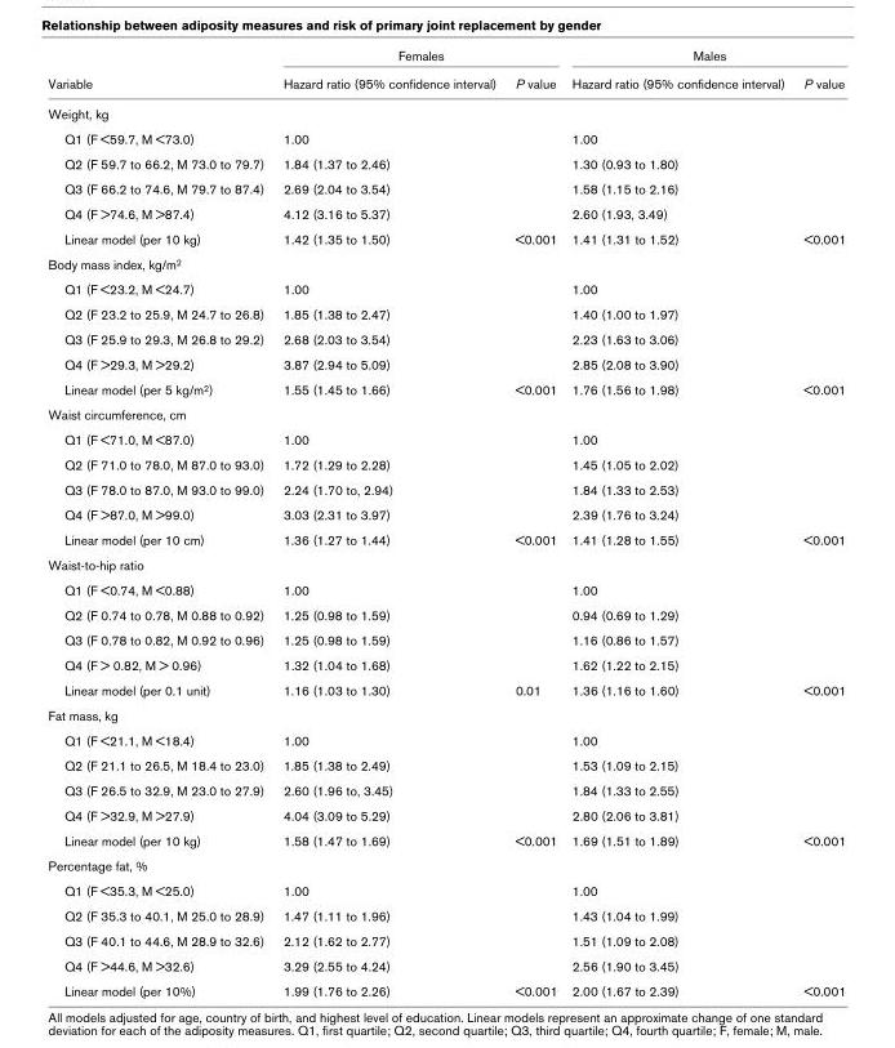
<table><thead><tr><td rowspan="2">Variable</td><td colspan="2">Females</td><td colspan="2">Males</td></tr><tr><td>Hazard ratio (95% confidence interval)</td><td>P value</td><td>Hazard ratio (95% confidence interval)</td><td>P value</td></tr></thead><tbody><tr><td colspan="5">Weight, kg</td></tr><tr><td>Q1 (F &lt;59.7, M &lt;73.0)</td><td>1.00</td><td></td><td>1.00</td><td></td></tr><tr><td>Q2 (F 59.7 to 66.2, M 73.0 to 79.7)</td><td>1.84 (1.37 to 2.46)</td><td></td><td>1.30 (0.93 to 1.80)</td><td></td></tr><tr><td>Q3 (F 66.2 to 74.6, M 79.7 to 87.4)</td><td>2.69 (2.04 to 3.54)</td><td></td><td>1.58 (1.15 to 2.16)</td><td></td></tr><tr><td>Q4 (F &gt;74.6, M &gt;87.4)</td><td>4.12 (3.16 to 5.37)</td><td></td><td>2.60 (1.93, 3.49)</td><td></td></tr><tr><td>Linear model (per 10 kg)</td><td>1.42 (1.35 to 1.50)</td><td>&lt;0.001</td><td>1.41 (1.31 to 1.52)</td><td>&lt;0.001</td></tr><tr><td colspan="5">Body mass index, kg/m<sup>2</sup></td></tr><tr><td>Q1 (F &lt;23.2, M &lt;24.7)</td><td>1.00</td><td></td><td>1.00</td><td></td></tr><tr><td>Q2 (F 23.2 to 25.9, M 24.7 to 26.8)</td><td>1.85 (1.38 to 2.47)</td><td></td><td>1.40 (1.00 to 1.97)</td><td></td></tr><tr><td>Q3 (F 25.9 to 29.3, M 26.8 to 29.2)</td><td>2.68 (2.03 to 3.54)</td><td></td><td>2.23 (1.63 to 3.06)</td><td></td></tr><tr><td>Q4 (F &gt;29.3, M &gt;29.2)</td><td>3.87 (2.94 to 5.09)</td><td></td><td>2.85 (2.08 to 3.90)</td><td></td></tr><tr><td>Linear model (per 5 kg/m<sup>2</sup>)</td><td>1.55 (1.45 to 1.66)</td><td>&lt;0.001</td><td>1.76 (1.56 to 1.98)</td><td>&lt;0.001</td></tr><tr><td colspan="5">Waist circumference, cm</td></tr><tr><td>Q1 (F &lt;71.0, M &lt;87.0)</td><td>1.00</td><td></td><td>1.00</td><td></td></tr><tr><td>Q2 (F 71.0 to 78.0, M 87.0 to 93.0)</td><td>1.72 (1.29 to 2.28)</td><td></td><td>1.45 (1.05 to 2.02)</td><td></td></tr><tr><td>Q3 (F 78.0 to 87.0, M 93.0 to 99.0)</td><td>2.24 (1.70 to, 2.94)</td><td></td><td>1.84 (1.33 to 2.53)</td><td></td></tr><tr><td>Q4 (F &gt;87.0, M &gt;99.0)</td><td>3.03 (2.31 to 3.97)</td><td></td><td>2.39 (1.76 to 3.24)</td><td></td></tr><tr><td>Linear model (per 10 cm)</td><td>1.36 (1.27 to 1.44)</td><td>&lt;0.001</td><td>1.41 (1.28 to 1.55)</td><td>&lt;0.001</td></tr><tr><td colspan="5">Waist-to-hip ratio</td></tr><tr><td>Q1 (F &lt;0.74, M &lt;0.88)</td><td>1.00</td><td></td><td>1.00</td><td></td></tr><tr><td>Q2 (F 0.74 to 0.78, M 0.88 to 0.92)</td><td>1.25 (0.98 to 1.59)</td><td></td><td>0.94 (0.69 to 1.29)</td><td></td></tr><tr><td>Q3 (F 0.78 to 0.82, M 0.92 to 0.96)</td><td>1.25 (0.98 to 1.59)</td><td></td><td>1.16 (0.86 to 1.57)</td><td></td></tr><tr><td>Q4 (F &gt; 0.82, M &gt; 0.96)</td><td>1.32 (1.04 to 1.68)</td><td></td><td>1.62 (1.22 to 2.15)</td><td></td></tr><tr><td>Linear model (per 0.1 unit)</td><td>1.16 (1.03 to 1.30)</td><td>0.01</td><td>1.36 (1.16 to 1.60)</td><td>&lt;0.001</td></tr><tr><td colspan="5">Fat mass, kg</td></tr><tr><td>Q1 (F &lt;21.1, M &lt;18.4)</td><td>1.00</td><td></td><td>1.00</td><td></td></tr><tr><td>Q2 (F 21.1 to 26.5, M 18.4 to 23.0)</td><td>1.85 (1.38 to 2.49)</td><td></td><td>1.53 (1.09 to 2.15)</td><td></td></tr><tr><td>Q3 (F 26.5 to 32.9, M 23.0 to 27.9)</td><td>2.60 (1.96 to, 3.45)</td><td></td><td>1.84 (1.33 to 2.55)</td><td></td></tr><tr><td>Q4 (F &gt;32.9, M &gt;27.9)</td><td>4.04 (3.09 to 5.29)</td><td></td><td>2.80 (2.06 to 3.81)</td><td></td></tr><tr><td>Linear model (per 10 kg)</td><td>1.58 (1.47 to 1.69)</td><td>&lt;0.001</td><td>1.69 (1.51 to 1.89)</td><td>&lt;0.001</td></tr><tr><td colspan="5">Percentage fat, %</td></tr><tr><td>Q1 (F &lt;35.3, M &lt;25.0)</td><td>1.00</td><td></td><td>1.00</td><td></td></tr><tr><td>Q2 (F 35.3 to 40.1, M 25.0 to 28.9)</td><td>1.47 (1.11 to 1.96)</td><td></td><td>1.43 (1.04 to 1.99)</td><td></td></tr><tr><td>Q3 (F 40.1 to 44.6, M 28.9 to 32.6)</td><td>2.12 (1.62 to 2.77)</td><td></td><td>1.51 (1.09 to 2.08)</td><td></td></tr><tr><td>Q4 (F &gt;44.6, M &gt;32.6)</td><td>3.29 (2.55 to 4.24)</td><td></td><td>2.56 (1.90 to 3.45)</td><td></td></tr><tr><td>Linear model (per 10%)</td><td>1.99 (1.76 to 2.26)</td><td>&lt;0.001</td><td>2.00 (1.67 to 2.39)</td><td>&lt;0.001</td></tr></tbody></table>